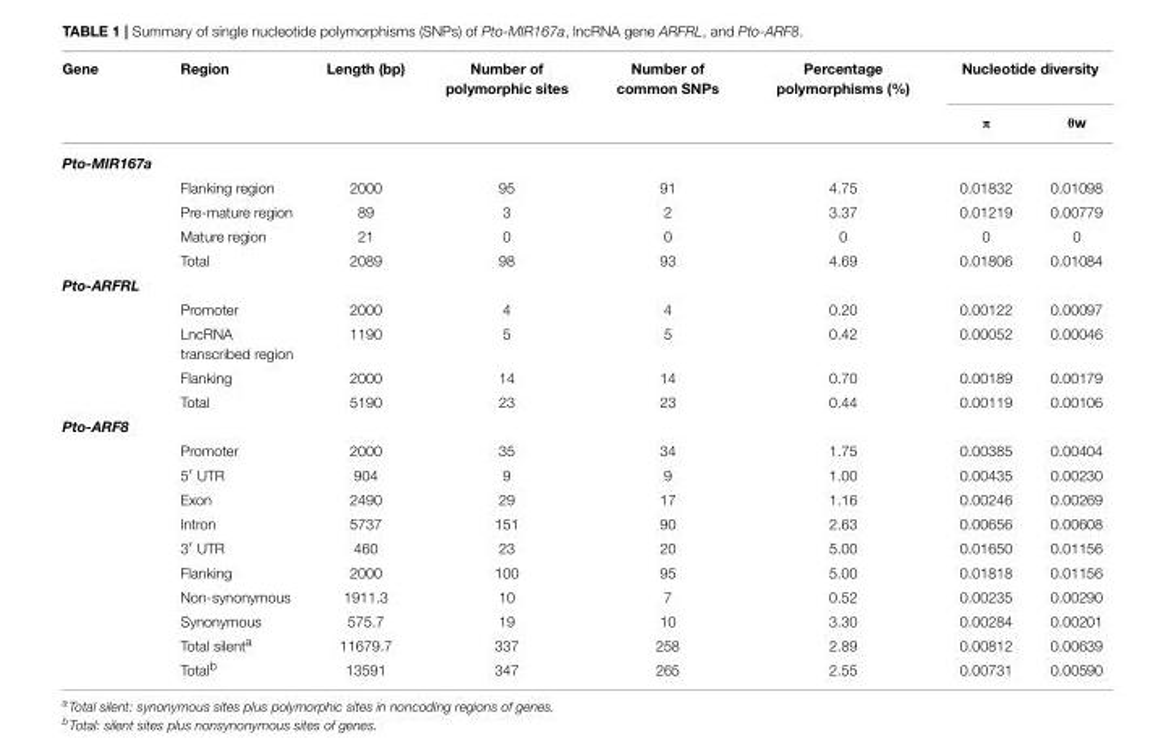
<table><thead><tr><td rowspan="2">Gene</td><td rowspan="2">Region</td><td rowspan="2">Length (bp)</td><td rowspan="2">Number of polymorphic sites</td><td rowspan="2">Number of common SNPs</td><td rowspan="2">Percentage polymorphisms (%)</td><td colspan="2">Nucleotide diversity</td></tr><tr><td>π</td><td>θw</td></tr></thead><tbody><tr><td colspan="8">Pto-MIR167a</td></tr><tr><td></td><td>Flanking region</td><td>2000</td><td>95</td><td>91</td><td>4.75</td><td>0.01832</td><td>0.01098</td></tr><tr><td></td><td>Pre-mature region</td><td>89</td><td>3</td><td>2</td><td>3.37</td><td>0.01219</td><td>0.00779</td></tr><tr><td></td><td>Mature region</td><td>21</td><td>0</td><td>0</td><td>0</td><td>0</td><td>0</td></tr><tr><td></td><td>Total</td><td>2089</td><td>98</td><td>93</td><td>4.69</td><td>0.01806</td><td>0.01084</td></tr><tr><td colspan="8">Pto-ARFRL</td></tr><tr><td></td><td>Promoter</td><td>2000</td><td>4</td><td>4</td><td>0.20</td><td>0.00122</td><td>0.00097</td></tr><tr><td></td><td>LncRNA transcribed region</td><td>1190</td><td>5</td><td>5</td><td>0.42</td><td>0.00052</td><td>0.00046</td></tr><tr><td></td><td>Flanking</td><td>2000</td><td>14</td><td>14</td><td>0.70</td><td>0.00189</td><td>0.00179</td></tr><tr><td></td><td>Total</td><td>5190</td><td>23</td><td>23</td><td>0.44</td><td>0.00119</td><td>0.00106</td></tr><tr><td colspan="8">Pto-ARF8</td></tr><tr><td></td><td>Promoter</td><td>2000</td><td>35</td><td>34</td><td>1.75</td><td>0.00385</td><td>0.00404</td></tr><tr><td></td><td>5′ UTR</td><td>904</td><td>9</td><td>9</td><td>1.00</td><td>0.00435</td><td>0.00230</td></tr><tr><td></td><td>Exon</td><td>2490</td><td>29</td><td>17</td><td>1.16</td><td>0.00246</td><td>0.00269</td></tr><tr><td></td><td>Intron</td><td>5737</td><td>151</td><td>90</td><td>2.63</td><td>0.00656</td><td>0.00608</td></tr><tr><td></td><td>3′ UTR</td><td>460</td><td>23</td><td>20</td><td>5.00</td><td>0.01650</td><td>0.01156</td></tr><tr><td></td><td>Flanking</td><td>2000</td><td>100</td><td>95</td><td>5.00</td><td>0.01818</td><td>0.01156</td></tr><tr><td></td><td>Non-synonymous</td><td>1911.3</td><td>10</td><td>7</td><td>0.52</td><td>0.00235</td><td>0.00290</td></tr><tr><td></td><td>Synonymous</td><td>575.7</td><td>19</td><td>10</td><td>3.30</td><td>0.00284</td><td>0.00201</td></tr><tr><td></td><td>Total silent<sup>a</sup></td><td>11679.7</td><td>337</td><td>258</td><td>2.89</td><td>0.00812</td><td>0.00639</td></tr><tr><td></td><td>Total<sup>b</sup></td><td>13591</td><td>347</td><td>265</td><td>2.55</td><td>0.00731</td><td>0.00590</td></tr></tbody></table>